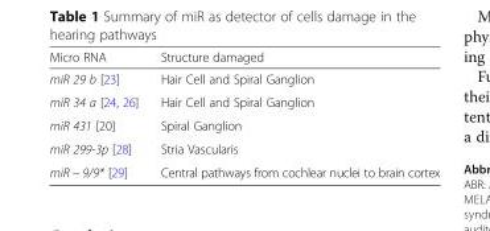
<table><thead><tr><td>Micro RNA</td><td>Structure damaged</td></tr></thead><tbody><tr><td>miR 29 b [23]</td><td>Hair Cell and Spiral Ganglion</td></tr><tr><td>miR 34 a [24, 26]</td><td>Hair Cell and Spiral Ganglion</td></tr><tr><td>miR 431 [20]</td><td>Spiral Ganglion</td></tr><tr><td>miR 299-3p [28]</td><td>Stria Vascularis</td></tr><tr><td>miR − 9/9* [29]</td><td>Central pathways from cochlear nuclei to brain cortex</td></tr></tbody></table>